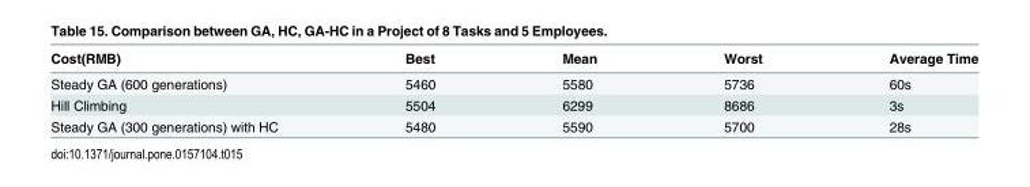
<table><thead><tr><td>Cost(RMB)</td><td>Best</td><td>Mean</td><td>Worst</td><td>Average Time</td></tr></thead><tbody><tr><td>Steady GA (600 generations)</td><td>5460</td><td>5580</td><td>5736</td><td>60s</td></tr><tr><td>Hill Climbing</td><td>5504</td><td>6299</td><td>8686</td><td>3s</td></tr><tr><td>Steady GA (300 generations) with HC</td><td>5480</td><td>5590</td><td>5700</td><td>28s</td></tr></tbody></table>